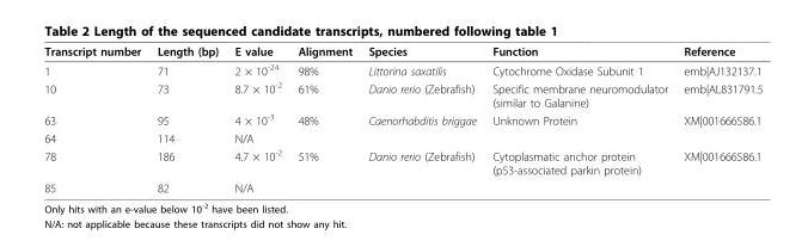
<table><thead><tr><td>Transcript number</td><td>Length (bp)</td><td>E value</td><td>Alignment</td><td>Species</td><td>Function</td><td>Reference</td></tr></thead><tbody><tr><td>1</td><td>71</td><td>2 × 10<sup>-24</sup></td><td>98%</td><td>Littorina saxatilis</td><td>Cytochrome Oxidase Subunit 1</td><td>emb|AJ132137.1</td></tr><tr><td>10</td><td>73</td><td>8.7 × 10<sup>-2</sup></td><td>61%</td><td>Danio rerio (Zebrafish)</td><td>Specific membrane neuromodulator (similar to Galanine)</td><td>emb|AL831791.5</td></tr><tr><td>63</td><td>95</td><td>4 × 10<sup>-3</sup></td><td>48%</td><td>Caenorhabditis briggae</td><td>Unknown Protein</td><td>XM|001666586.1</td></tr><tr><td>64</td><td>114</td><td>N/A</td><td></td><td></td><td></td><td></td></tr><tr><td>78</td><td>186</td><td>4.7 × 10<sup>-2</sup></td><td>51%</td><td>Danio rerio (Zebrafish)</td><td>Cytoplasmatic anchor protein (p53-associated parkin protein)</td><td>XM|001666586.1</td></tr><tr><td>85</td><td>82</td><td>N/A</td><td></td><td></td><td></td><td></td></tr></tbody></table>